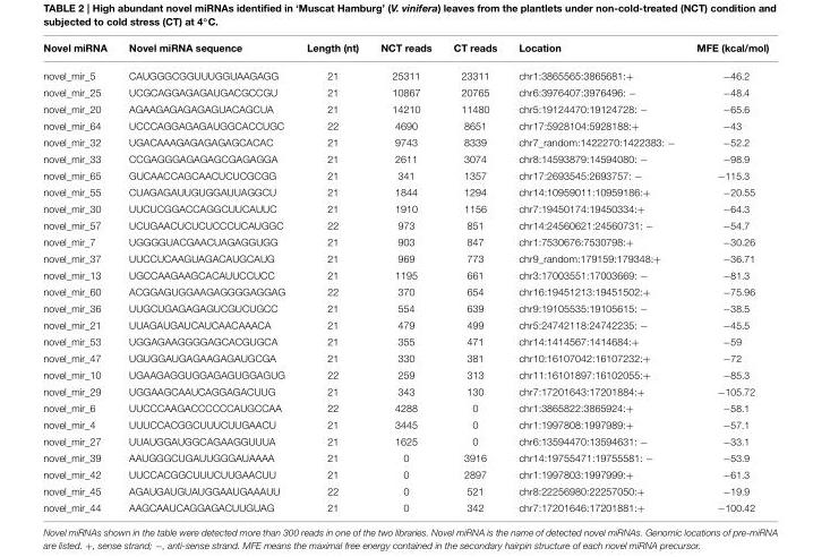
<table><thead><tr><td>Novel miRNA</td><td>Novel miRNA sequence</td><td>Length (nt)</td><td>NCT reads</td><td>CT reads</td><td>Location</td><td>MFE (kcal/mol)</td></tr></thead><tbody><tr><td>novel_mir_5</td><td>CAUGGGCGGUUUGGUAAGAGG</td><td>21</td><td>25311</td><td>23311</td><td>chr1:3865565:3865681:+</td><td>−46.2</td></tr><tr><td>novel_mir_25</td><td>UCGCAGGAGAGAUGACGCCGU</td><td>21</td><td>10867</td><td>20765</td><td>chr6:3976407:3976496: −</td><td>−48.4</td></tr><tr><td>novel_mir_20</td><td>AGAAGAGAGAGAGUACAGCUA</td><td>21</td><td>14210</td><td>11480</td><td>chr5:19124470:19124728: −</td><td>−65.6</td></tr><tr><td>novel_mir_64</td><td>UCCCAGGAGAGAUGGCACCUGC</td><td>22</td><td>4690</td><td>8651</td><td>chr17:5928104:5928188:+</td><td>−43</td></tr><tr><td>novel_mir_32</td><td>UGACAAAGAGAGAGAGCACAC</td><td>21</td><td>9743</td><td>8339</td><td>chr7_random:1422270:1422383: −</td><td>−52.2</td></tr><tr><td>novel_mir_33</td><td>CCGAGGGAGAGAGCGAGAGGA</td><td>21</td><td>2611</td><td>3074</td><td>chr8:14593879:14594080: −</td><td>−98.9</td></tr><tr><td>novel_mir_65</td><td>GUCAACCAGCAACUCUCGCGG</td><td>21</td><td>341</td><td>1357</td><td>chr17:2693545:2693757: −</td><td>−115.3</td></tr><tr><td>novel_mir_55</td><td>CUAGAGAUUGUGGAUUAGGCU</td><td>21</td><td>1844</td><td>1294</td><td>chr14:10959011:10959186:+</td><td>−20.55</td></tr><tr><td>novel_mir_30</td><td>UUCUCGGACCAGGCUUCAUUC</td><td>21</td><td>1910</td><td>1156</td><td>chr7:19450174:19450334:+</td><td>−64.3</td></tr><tr><td>novel_mir_57</td><td>UCUGAACUCUCUCCCUCAUGGC</td><td>22</td><td>973</td><td>851</td><td>chr14:24560621:24560731: −</td><td>−54.7</td></tr><tr><td>novel_mir_7</td><td>UGGGGUACGAACUAGAGGUGG</td><td>21</td><td>903</td><td>847</td><td>chr1:7530676:7530798:+</td><td>−30.26</td></tr><tr><td>novel_mir_37</td><td>UUCCUCAAGUAGACAUGCAUG</td><td>21</td><td>969</td><td>773</td><td>chr9_random:179159:179348:+</td><td>−36.71</td></tr><tr><td>novel_mir_13</td><td>UGCCAAGAAGCACAUUCCUCC</td><td>21</td><td>1195</td><td>661</td><td>chr3:17003551:17003669: −</td><td>−81.3</td></tr><tr><td>novel_mir_60</td><td>ACGGAGUGGAAGAGGGGAGGAG</td><td>22</td><td>370</td><td>654</td><td>chr16:19451213:19451502:+</td><td>−75.96</td></tr><tr><td>novel_mir_36</td><td>UUGCUGAGAGAGUCGUCUGCC</td><td>21</td><td>554</td><td>639</td><td>chr9:19105535:19105615: −</td><td>−38.5</td></tr><tr><td>novel_mir_21</td><td>UUAGAUGAUCAUCAACAAACA</td><td>21</td><td>479</td><td>499</td><td>chr5:24742118:24742235: −</td><td>−45.5</td></tr><tr><td>novel_mir_53</td><td>UGGAGAAGGGGAGCACGUGCA</td><td>21</td><td>355</td><td>471</td><td>chr14:1414567:1414684:+</td><td>−59</td></tr><tr><td>novel_mir_47</td><td>UGUGGAUGAGAAGAGAUGCGA</td><td>21</td><td>330</td><td>381</td><td>chr10:16107042:16107232:+</td><td>−72</td></tr><tr><td>novel_mir_10</td><td>UGAAGAGGUGGAGAGUGGAGUG</td><td>22</td><td>259</td><td>313</td><td>chr11:16101897:16102055:+</td><td>−85.3</td></tr><tr><td>novel_mir_29</td><td>UGGAAGCAAUCAGGAGACUUG</td><td>21</td><td>343</td><td>130</td><td>chr7:17201643:17201884:+</td><td>−105.72</td></tr><tr><td>novel_mir_6</td><td>UUCCCAAGACCCCCCAUGCCAA</td><td>22</td><td>4288</td><td>0</td><td>chr1:3865822:3865924:+</td><td>−58.1</td></tr><tr><td>novel_mir_4</td><td>UUUCCACGGCUUUCUUGAACU</td><td>21</td><td>3445</td><td>0</td><td>chr1:1997808:1997989:+</td><td>−57.1</td></tr><tr><td>novel_mir_27</td><td>UUAUGGAUGGCAGAAGGUUUA</td><td>21</td><td>1625</td><td>0</td><td>chr6:13594470:13594631: −</td><td>−33.1</td></tr><tr><td>novel_mir_39</td><td>AAUGGGCUGAUUGGGAUAAAA</td><td>21</td><td>0</td><td>3916</td><td>chr14:19755471:19755581: −</td><td>−53.9</td></tr><tr><td>novel_mir_42</td><td>UUCCACGGCUUUCUUGAACUU</td><td>21</td><td>0</td><td>2897</td><td>chr1:1997803:1997999:+</td><td>−61.3</td></tr><tr><td>novel_mir_45</td><td>AGAUGAUGUAUGGAAUGAAAUU</td><td>22</td><td>0</td><td>521</td><td>chr8:22256980:22257050:+</td><td>−19.9</td></tr><tr><td>novel_mir_44</td><td>AAGCAAUCAGGAGACUUGUAG</td><td>21</td><td>0</td><td>342</td><td>chr7:17201646:17201881:+</td><td>−100.42</td></tr></tbody></table>